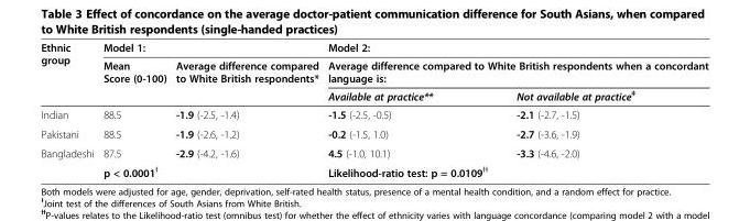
<table><thead><tr><td rowspan="3">Ethnic group</td><td colspan="2">Model 1:</td><td rowspan="2" colspan="2">Model 2: Average difference compared to White British respondents when a concordant language is:</td></tr><tr><td rowspan="2">Mean Score (0-100)</td><td rowspan="2">Average difference compared to White British respondents*</td></tr><tr><td>Available at practice**</td><td>Not available at practice<sup>‡</sup></td></tr></thead><tbody><tr><td>Indian</td><td>88.5</td><td>-1.9 (-2.5, -1.4)</td><td>-1.5 (-2.5, -0.5)</td><td>-2.1 (-2.7, -1.5)</td></tr><tr><td>Pakistani</td><td>88.5</td><td>-1.9 (-2.6, -1.2)</td><td>-0.2 (-1.5, 1.0)</td><td>-2.7 (-3.6, -1.9)</td></tr><tr><td rowspan="2">Bangladeshi</td><td>87.5</td><td>-2.9 (-4.2, -1.6)</td><td>4.5 (-1.0, 10.1)</td><td>-3.3 (-4.6, -2.0)</td></tr><tr><td colspan="2">p &lt; 0.0001<sup>Ɨ</sup></td><td colspan="2">Likelihood-ratio test: p = 0.0109<sup>ƗƗ</sup></td></tr></tbody></table>